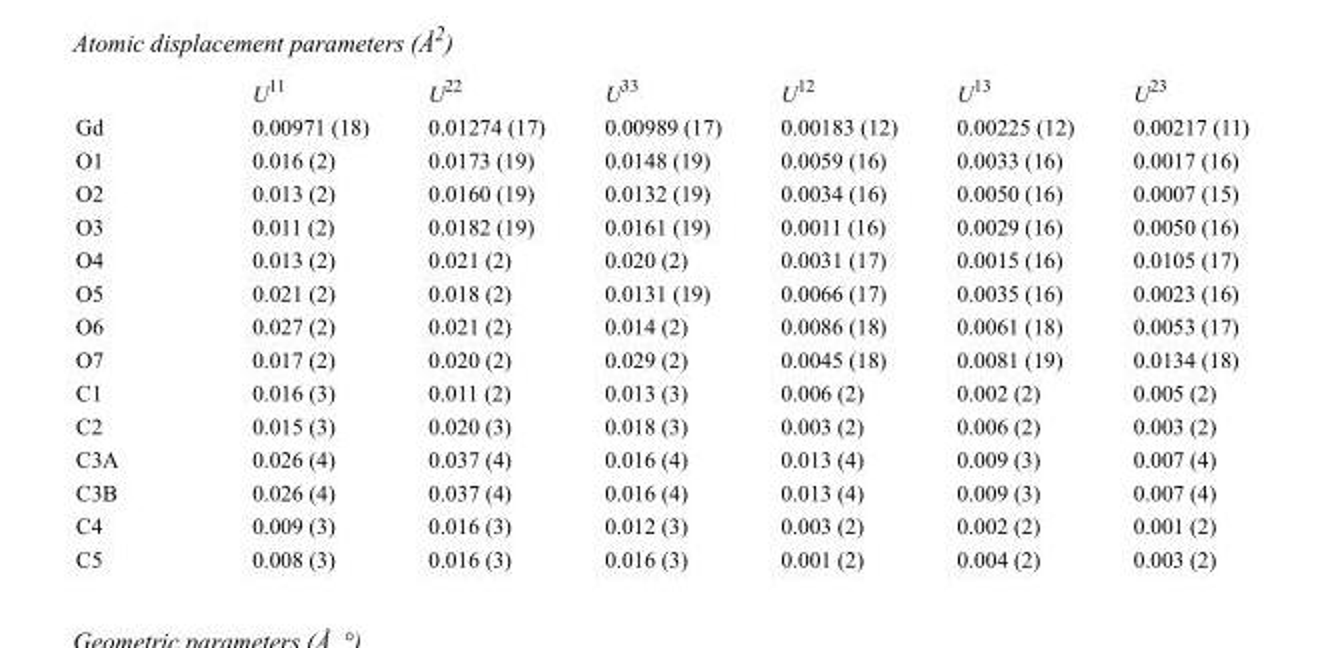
<table><thead><tr><td></td><td>U<sup>11</sup></td><td>U<sup>22</sup></td><td>U<sup>33</sup></td><td>U<sup>12</sup></td><td>U<sup>13</sup></td><td>U<sup>23</sup></td></tr></thead><tbody><tr><td>Gd</td><td>0.00971 (18)</td><td>0.01274 (17)</td><td>0.00989 (17)</td><td>0.00183 (12)</td><td>0.00225 (12)</td><td>0.00217 (11)</td></tr><tr><td>O1</td><td>0.016 (2)</td><td>0.0173 (19)</td><td>0.0148 (19)</td><td>0.0059 (16)</td><td>0.0033 (16)</td><td>0.0017 (16)</td></tr><tr><td>O2</td><td>0.013 (2)</td><td>0.0160 (19)</td><td>0.0132 (19)</td><td>0.0034 (16)</td><td>0.0050 (16)</td><td>0.0007 (15)</td></tr><tr><td>O3</td><td>0.011 (2)</td><td>0.0182 (19)</td><td>0.0161 (19)</td><td>0.0011 (16)</td><td>0.0029 (16)</td><td>0.0050 (16)</td></tr><tr><td>O4</td><td>0.013 (2)</td><td>0.021 (2)</td><td>0.020 (2)</td><td>0.0031 (17)</td><td>0.0015 (16)</td><td>0.0105 (17)</td></tr><tr><td>O5</td><td>0.021 (2)</td><td>0.018 (2)</td><td>0.0131 (19)</td><td>0.0066 (17)</td><td>0.0035 (16)</td><td>0.0023 (16)</td></tr><tr><td>O6</td><td>0.027 (2)</td><td>0.021 (2)</td><td>0.014 (2)</td><td>0.0086 (18)</td><td>0.0061 (18)</td><td>0.0053 (17)</td></tr><tr><td>O7</td><td>0.017 (2)</td><td>0.020 (2)</td><td>0.029 (2)</td><td>0.0045 (18)</td><td>0.0081 (19)</td><td>0.0134 (18)</td></tr><tr><td>C1</td><td>0.016 (3)</td><td>0.011 (2)</td><td>0.013 (3)</td><td>0.006 (2)</td><td>0.002 (2)</td><td>0.005 (2)</td></tr><tr><td>C2</td><td>0.015 (3)</td><td>0.020 (3)</td><td>0.018 (3)</td><td>0.003 (2)</td><td>0.006 (2)</td><td>0.003 (2)</td></tr><tr><td>C3A</td><td>0.026 (4)</td><td>0.037 (4)</td><td>0.016 (4)</td><td>0.013 (4)</td><td>0.009 (3)</td><td>0.007 (4)</td></tr><tr><td>C3B</td><td>0.026 (4)</td><td>0.037 (4)</td><td>0.016 (4)</td><td>0.013 (4)</td><td>0.009 (3)</td><td>0.007 (4)</td></tr><tr><td>C4</td><td>0.009 (3)</td><td>0.016 (3)</td><td>0.012 (3)</td><td>0.003 (2)</td><td>0.002 (2)</td><td>0.001 (2)</td></tr><tr><td>C5</td><td>0.008 (3)</td><td>0.016 (3)</td><td>0.016 (3)</td><td>0.001 (2)</td><td>0.004 (2)</td><td>0.003 (2)</td></tr></tbody></table>